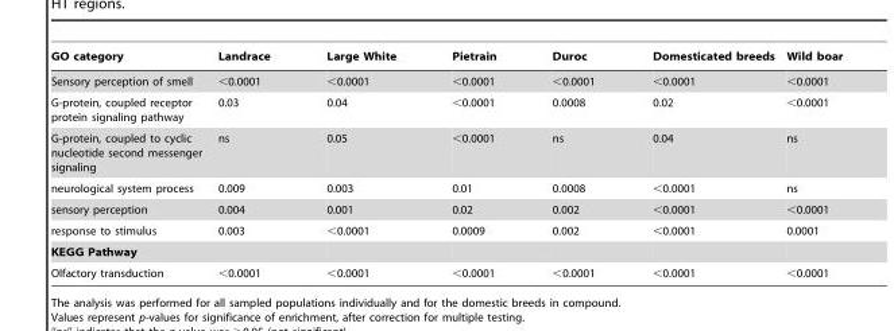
<table><thead><tr><td>GO category</td><td>Landrace</td><td>Large White</td><td>Pietrain</td><td>Duroc</td><td>Domesticated breeds</td><td>Wild boar</td></tr></thead><tbody><tr><td>Sensory perception of smell</td><td>&lt;0.0001</td><td>&lt;0.0001</td><td>&lt;0.0001</td><td>&lt;0.0001</td><td>&lt;0.0001</td><td>&lt;0.0001</td></tr><tr><td>G-protein, coupled receptor protein signaling pathway</td><td>0.03</td><td>0.04</td><td>&lt;0.0001</td><td>0.0008</td><td>0.02</td><td>&lt;0.0001</td></tr><tr><td>G-protein, coupled to cyclic nucleotide second messenger signaling</td><td>ns</td><td>0.05</td><td>&lt;0.0001</td><td>ns</td><td>0.04</td><td>ns</td></tr><tr><td>neurological system process</td><td>0.009</td><td>0.003</td><td>0.01</td><td>0.0008</td><td>&lt;0.0001</td><td>ns</td></tr><tr><td>sensory perception</td><td>0.004</td><td>0.001</td><td>0.02</td><td>0.002</td><td>&lt;0.0001</td><td>&lt;0.0001</td></tr><tr><td>response to stimulus</td><td>0.003</td><td>&lt;0.0001</td><td>0.0009</td><td>0.002</td><td>&lt;0.0001</td><td>0.0001</td></tr><tr><td colspan="7">KEGG Pathway</td></tr><tr><td>Olfactory transduction</td><td>&lt;0.0001</td><td>&lt;0.0001</td><td>&lt;0.0001</td><td>&lt;0.0001</td><td>&lt;0.0001</td><td>&lt;0.0001</td></tr></tbody></table>